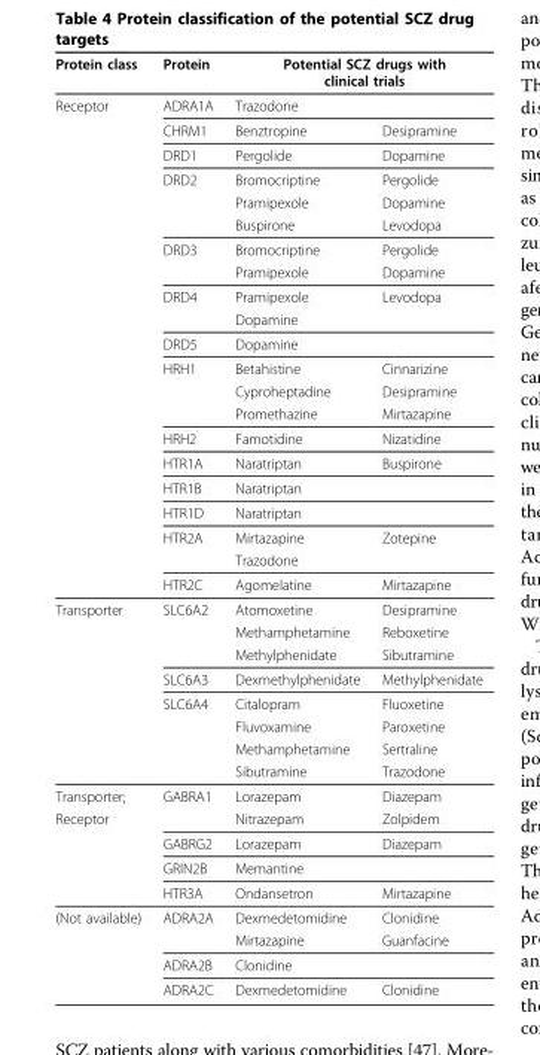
<table><thead><tr><td rowspan="2">Protein class Receptor</td><td rowspan="2">Protein ADRA1A</td><td colspan="2">Potential SCZ drugs with clinical trials</td></tr><tr><td>Trazodone</td><td></td></tr></thead><tbody><tr><td></td><td>CHRM1</td><td>Benztropine</td><td>Desipramine</td></tr><tr><td></td><td>DRD1</td><td>Pergolide</td><td>Dopamine</td></tr><tr><td></td><td>DRD2</td><td>Bromocriptine</td><td>Pergolide</td></tr><tr><td></td><td></td><td>Pramipexole</td><td>Dopamine</td></tr><tr><td></td><td></td><td>Buspirone</td><td>Levodopa</td></tr><tr><td></td><td>DRD3</td><td>Bromocriptine</td><td>Pergolide</td></tr><tr><td></td><td></td><td>Pramipexole</td><td>Dopamine</td></tr><tr><td></td><td>DRD4</td><td>Pramipexole</td><td>Levodopa</td></tr><tr><td></td><td></td><td>Dopamine</td><td></td></tr><tr><td></td><td>DRD5</td><td>Dopamine</td><td></td></tr><tr><td></td><td>HRH1</td><td>Betahistine</td><td>Cinnarizine</td></tr><tr><td></td><td></td><td>Cyproheptadine</td><td>Desipramine</td></tr><tr><td></td><td></td><td>Promethazine</td><td>Mirtazapine</td></tr><tr><td></td><td>HRH2</td><td>Famotidine</td><td>Nizatidine</td></tr><tr><td></td><td>HTR1A</td><td>Naratriptan</td><td>Buspirone</td></tr><tr><td></td><td>HTR1B</td><td>Naratriptan</td><td></td></tr><tr><td></td><td>HTR1D</td><td>Naratriptan</td><td></td></tr><tr><td></td><td>HTR2A</td><td>Mirtazapine</td><td>Zotepine</td></tr><tr><td></td><td></td><td>Trazodone</td><td></td></tr><tr><td></td><td>HTR2C</td><td>Agomelatine</td><td>Mirtazapine</td></tr><tr><td rowspan="8">Transporter</td><td>SLC6A2</td><td>Atomoxetine</td><td>Desipramine</td></tr><tr><td></td><td>Methamphetamine</td><td>Reboxetine</td></tr><tr><td></td><td>Methylphenidate</td><td>Sibutramine</td></tr><tr><td>SLC6A3</td><td>Dexmethylphenidate</td><td>Methylphenidate</td></tr><tr><td>SLC6A4</td><td>Citalopram</td><td>Fluoxetine</td></tr><tr><td></td><td>Fluvoxamine</td><td>Paroxetine</td></tr><tr><td></td><td>Methamphetamine</td><td>Sertraline</td></tr><tr><td></td><td>Sibutramine</td><td>Trazodone</td></tr><tr><td>Transporter;</td><td>GABRA1</td><td>Lorazepam</td><td>Diazepam</td></tr><tr><td rowspan="4">Receptor</td><td></td><td>Nitrazepam</td><td>Zolpidem</td></tr><tr><td>GABRG2</td><td>Lorazepam</td><td>Diazepam</td></tr><tr><td>GRIN2B</td><td>Memantine</td><td></td></tr><tr><td>HTR3A</td><td>Ondansetron</td><td>Mirtazapine</td></tr><tr><td rowspan="4">(Not available)</td><td>ADRA2A</td><td>Dexmedetomidine</td><td>Clonidine</td></tr><tr><td></td><td>Mirtazapine</td><td>Guanfacine</td></tr><tr><td>ADRA2B</td><td>Clonidine</td><td></td></tr><tr><td>ADRA2C</td><td>Dexmedetomidine</td><td>Clonidine</td></tr></tbody></table>